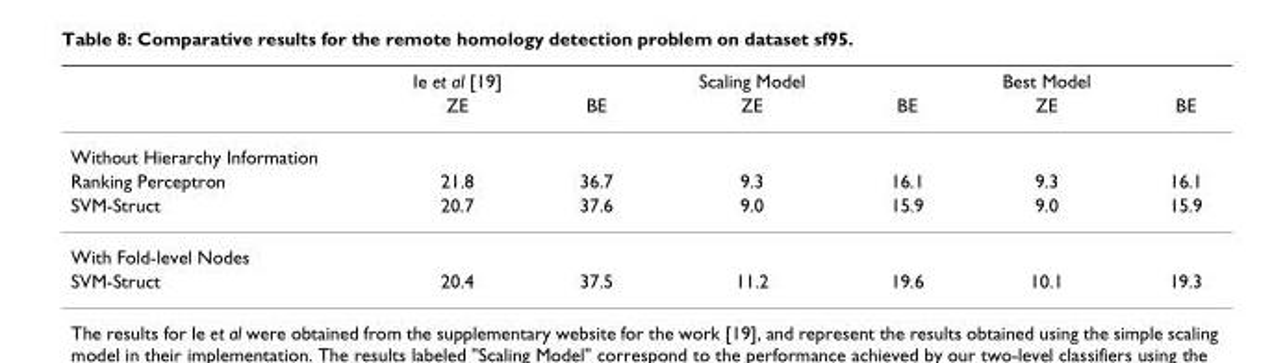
<table><thead><tr><td rowspan="2"></td><td rowspan="2">Ie et al [19] ZE</td><td rowspan="2">BE</td><td rowspan="2">Scaling Model ZE</td><td rowspan="2">BE</td><td rowspan="2">Best Model ZE</td><td rowspan="2">BE</td></tr><tr></tr></thead><tbody><tr><td colspan="7">Without Hierarchy Information</td></tr><tr><td>Ranking Perceptron</td><td>21.8</td><td>36.7</td><td>9.3</td><td>16.1</td><td>9.3</td><td>16.1</td></tr><tr><td>SVM-Struct</td><td>20.7</td><td>37.6</td><td>9.0</td><td>15.9</td><td>9.0</td><td>15.9</td></tr><tr><td colspan="7">With Fold-level Nodes</td></tr><tr><td>SVM-Struct</td><td>20.4</td><td>37.5</td><td>11.2</td><td>19.6</td><td>10.1</td><td>19.3</td></tr></tbody></table>